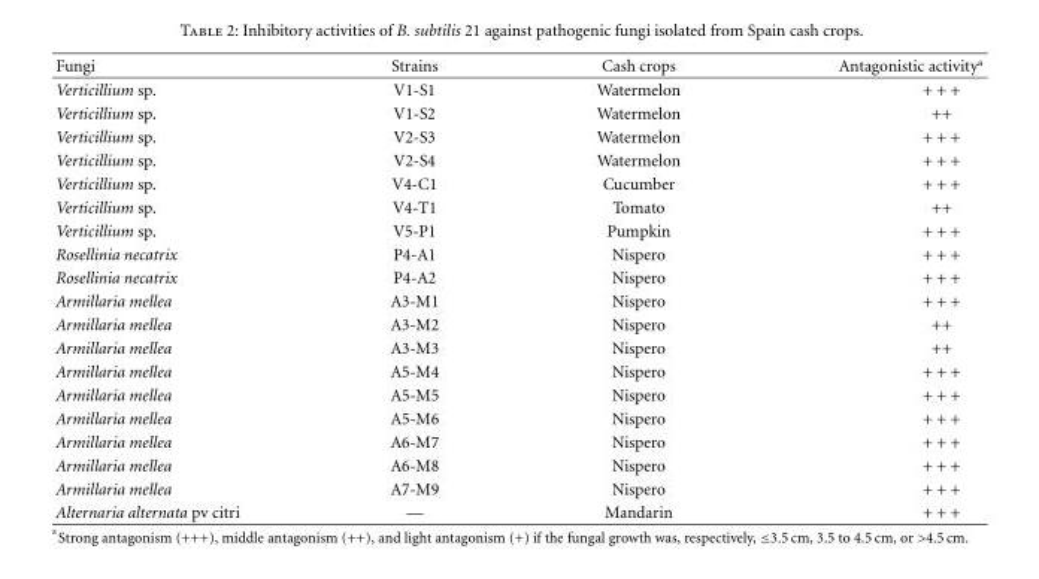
<table><thead><tr><td>Fungi</td><td>Strains</td><td>Cash crops</td><td>Antagonistic activity<sup>a</sup></td></tr></thead><tbody><tr><td>Verticillium sp.</td><td>V1-S1</td><td>Watermelon</td><td>+ + +</td></tr><tr><td>Verticillium sp.</td><td>V1-S2</td><td>Watermelon</td><td>++</td></tr><tr><td>Verticillium sp.</td><td>V2-S3</td><td>Watermelon</td><td>+ + +</td></tr><tr><td>Verticillium sp.</td><td>V2-S4</td><td>Watermelon</td><td>+ + +</td></tr><tr><td>Verticillium sp.</td><td>V4-C1</td><td>Cucumber</td><td>+ + +</td></tr><tr><td>Verticillium sp.</td><td>V4-T1</td><td>Tomato</td><td>++</td></tr><tr><td>Verticillium sp.</td><td>V5-P1</td><td>Pumpkin</td><td>+ + +</td></tr><tr><td>Rosellinia necatrix</td><td>P4-A1</td><td>Nispero</td><td>+ + +</td></tr><tr><td>Rosellinia necatrix</td><td>P4-A2</td><td>Nispero</td><td>+ + +</td></tr><tr><td>Armillaria mellea</td><td>A3-M1</td><td>Nispero</td><td>+ + +</td></tr><tr><td>Armillaria mellea</td><td>A3-M2</td><td>Nispero</td><td>++</td></tr><tr><td>Armillaria mellea</td><td>A3-M3</td><td>Nispero</td><td>++</td></tr><tr><td>Armillaria mellea</td><td>A5-M4</td><td>Nispero</td><td>+ + +</td></tr><tr><td>Armillaria mellea</td><td>A5-M5</td><td>Nispero</td><td>+ + +</td></tr><tr><td>Armillaria mellea</td><td>A5-M6</td><td>Nispero</td><td>+ + +</td></tr><tr><td>Armillaria mellea</td><td>A6-M7</td><td>Nispero</td><td>+ + +</td></tr><tr><td>Armillaria mellea</td><td>A6-M8</td><td>Nispero</td><td>+ + +</td></tr><tr><td>Armillaria mellea</td><td>A7-M9</td><td>Nispero</td><td>+ + +</td></tr><tr><td>Alternaria alternata pv citri</td><td>—</td><td>Mandarin</td><td>+ + +</td></tr></tbody></table>